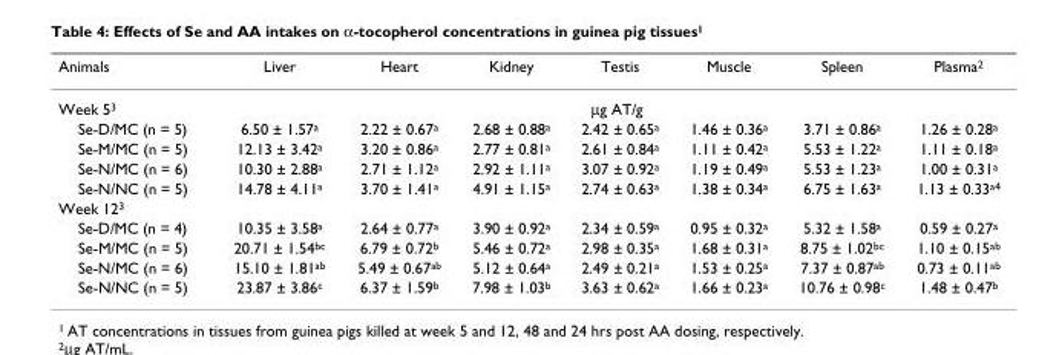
<table><thead><tr><td>Animals</td><td>Liver</td><td>Heart</td><td>Kidney</td><td>Testis</td><td>Muscle</td><td>Spleen</td><td>Plasma<sup>2</sup></td></tr></thead><tbody><tr><td>Week 5<sup>3</sup></td><td colspan="7">μg AT/g</td></tr><tr><td>Se-D/MC (n = 5)</td><td>6.50 ± 1.57<sup>a</sup></td><td>2.22 ± 0.67<sup>a</sup></td><td>2.68 ± 0.88<sup>a</sup></td><td>2.42 ± 0.65<sup>a</sup></td><td>1.46 ± 0.36<sup>a</sup></td><td>3.71 ± 0.86<sup>a</sup></td><td>1.26 ± 0.28<sup>a</sup></td></tr><tr><td>Se-M/MC (n = 5)</td><td>12.13 ± 3.42<sup>a</sup></td><td>3.20 ± 0.86<sup>a</sup></td><td>2.77 ± 0.81<sup>a</sup></td><td>2.61 ± 0.84<sup>a</sup></td><td>1.11 ± 0.42<sup>a</sup></td><td>5.53 ± 1.22<sup>a</sup></td><td>1.11 ± 0.18<sup>a</sup></td></tr><tr><td>Se-N/MC (n = 6)</td><td>10.30 ± 2.88<sup>a</sup></td><td>2.71 ± 1.12<sup>a</sup></td><td>2.92 ± 1.11<sup>a</sup></td><td>3.07 ± 0.92<sup>a</sup></td><td>1.19 ± 0.49<sup>a</sup></td><td>5.53 ± 1.23<sup>a</sup></td><td>1.00 ± 0.31<sup>a</sup></td></tr><tr><td>Se-N/NC (n = 5)</td><td>14.78 ± 4.11<sup>a</sup></td><td>3.70 ± 1.41<sup>a</sup></td><td>4.91 ± 1.15<sup>a</sup></td><td>2.74 ± 0.63<sup>a</sup></td><td>1.38 ± 0.34<sup>a</sup></td><td>6.75 ± 1.63<sup>a</sup></td><td>1.13 ± 0.33<sup>a4</sup></td></tr><tr><td colspan="8">Week 12<sup>3</sup></td></tr><tr><td>Se-D/MC (n = 4)</td><td>10.35 ± 3.58<sup>a</sup></td><td>2.64 ± 0.77<sup>a</sup></td><td>3.90 ± 0.92<sup>a</sup></td><td>2.34 ± 0.59<sup>a</sup></td><td>0.95 ± 0.32<sup>a</sup></td><td>5.32 ± 1.58<sup>a</sup></td><td>0.59 ± 0.27<sup>a</sup></td></tr><tr><td>Se-M/MC (n = 5)</td><td>20.71 ± 1.54<sup>bc</sup></td><td>6.79 ± 0.72<sup>b</sup></td><td>5.46 ± 0.72<sup>a</sup></td><td>2.98 ± 0.35<sup>a</sup></td><td>1.68 ± 0.31<sup>a</sup></td><td>8.75 ± 1.02<sup>bc</sup></td><td>1.10 ± 0.15<sup>ab</sup></td></tr><tr><td>Se-N/MC (n = 6)</td><td>15.10 ± 1.81<sup>ab</sup></td><td>5.49 ± 0.67<sup>ab</sup></td><td>5.12 ± 0.64<sup>a</sup></td><td>2.49 ± 0.21<sup>a</sup></td><td>1.53 ± 0.25<sup>a</sup></td><td>7.37 ± 0.87<sup>ab</sup></td><td>0.73 ± 0.11<sup>ab</sup></td></tr><tr><td>Se-N/NC (n = 5)</td><td>23.87 ± 3.86<sup>c</sup></td><td>6.37 ± 1.59<sup>b</sup></td><td>7.98 ± 1.03<sup>b</sup></td><td>3.63 ± 0.62<sup>a</sup></td><td>1.66 ± 0.23<sup>a</sup></td><td>10.76 ± 0.98<sup>c</sup></td><td>1.48 ± 0.47<sup>b</sup></td></tr></tbody></table>